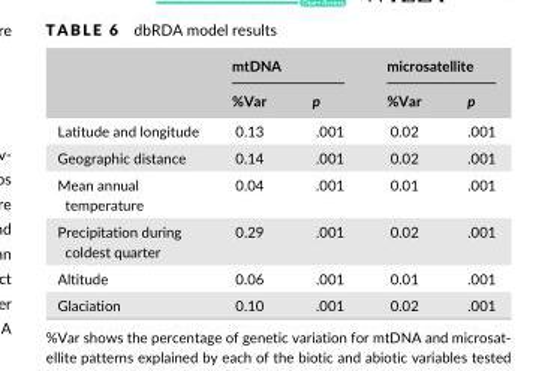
<table><thead><tr><td rowspan="2"></td><td colspan="2">mtDNA</td><td colspan="2">microsatellite</td></tr><tr><td>%Var</td><td>p</td><td>%Var</td><td>p</td></tr></thead><tbody><tr><td>Latitude and longitude</td><td>0.13</td><td>.001</td><td>0.02</td><td>.001</td></tr><tr><td>Geographic distance</td><td>0.14</td><td>.001</td><td>0.02</td><td>.001</td></tr><tr><td>Mean annual temperature</td><td>0.04</td><td>.001</td><td>0.01</td><td>.001</td></tr><tr><td>Precipitation during coldest quarter</td><td>0.29</td><td>.001</td><td>0.02</td><td>.001</td></tr><tr><td>Altitude</td><td>0.06</td><td>.001</td><td>0.01</td><td>.001</td></tr><tr><td>Glaciation</td><td>0.10</td><td>.001</td><td>0.02</td><td>.001</td></tr></tbody></table>